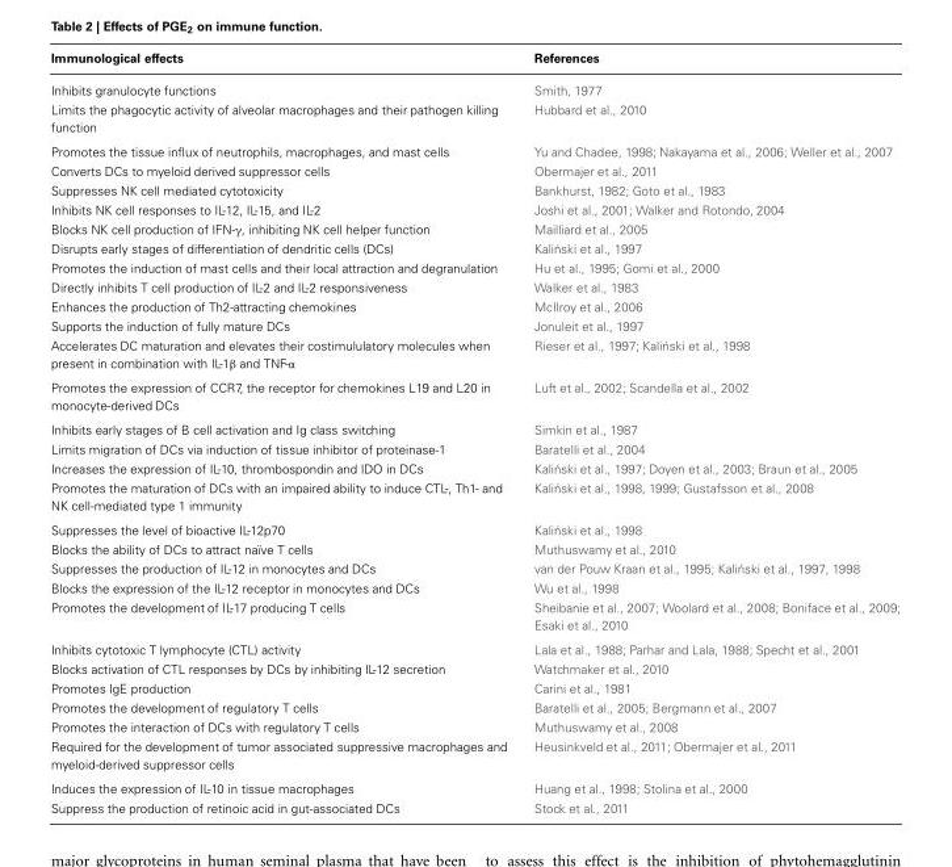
<table><thead><tr><td>Immunological effects</td><td>References</td></tr></thead><tbody><tr><td>Inhibits granulocyte functions</td><td>Smith, 1977</td></tr><tr><td>Limits the phagocytic activity of alveolar macrophages and their pathogen killing function</td><td>Hubbard et al., 2010</td></tr><tr><td>Promotes the tissue influx of neutrophils, macrophages, and mast cells</td><td>Yu and Chadee, 1998; Nakayama et al., 2006; Weller et al., 2007</td></tr><tr><td>Converts DCs to myeloid derived suppressor cells</td><td>Obermajer et al., 2011</td></tr><tr><td>Suppresses NK cell mediated cytotoxicity</td><td>Bankhurst, 1982; Goto et al., 1983</td></tr><tr><td>Inhibits NK cell responses to IL-12, IL-15, and IL-2</td><td>Joshi et al., 2001; Walker and Rotondo, 2004</td></tr><tr><td>Blocks NK cell production of IFN-γ, inhibiting NK cell helper function</td><td>Mailliard et al., 2005</td></tr><tr><td>Disrupts early stages of differentiation of dendritic cells (DCs)</td><td>Kali´nski et al., 1997</td></tr><tr><td>Promotes the induction of mast cells and their local attraction and degranulation</td><td>Hu et al., 1995; Gomi et al., 2000</td></tr><tr><td>Directly inhibits T cell production of IL-2 and IL-2 responsiveness</td><td>Walker et al., 1983</td></tr><tr><td>Enhances the production of Th2-attracting chemokines</td><td>McIlroy et al., 2006</td></tr><tr><td>Supports the induction of fully mature DCs</td><td>Jonuleit et al., 1997</td></tr><tr><td>Accelerates DC maturation and elevates their costimululatory molecules when present in combination with IL-1β and TNF-α</td><td>Rieser et al., 1997; Kali´nski et al., 1998</td></tr><tr><td>Promotes the expression of CCR7, the receptor for chemokines L19 and L20 in monocyte-derived DCs</td><td>Luft et al., 2002; Scandella et al., 2002</td></tr><tr><td>Inhibits early stages of B cell activation and Ig class switching</td><td>Simkin et al., 1987</td></tr><tr><td>Limits migration of DCs via induction of tissue inhibitor of proteinase-1</td><td>Baratelli et al., 2004</td></tr><tr><td>Increases the expression of IL-10, thrombospondin and IDO in DCs</td><td>Kali´nski et al., 1997; Doyen et al., 2003; Braun et al., 2005</td></tr><tr><td>Promotes the maturation of DCs with an impaired ability to induce CTL-, Th1- and NK cell-mediated type 1 immunity</td><td>Kali´nski et al., 1998, 1999; Gustafsson et al., 2008</td></tr><tr><td>Suppresses the level of bioactive IL-12p70</td><td>Kali´nski et al., 1998</td></tr><tr><td>Blocks the ability of DCs to attract naïve T cells</td><td>Muthuswamy et al., 2010</td></tr><tr><td>Suppresses the production of IL-12 in monocytes and DCs</td><td>van der Pouw Kraan et al., 1995; Kali´nski et al., 1997, 1998</td></tr><tr><td>Blocks the expression of the IL-12 receptor in monocytes and DCs</td><td>Wu et al., 1998</td></tr><tr><td>Promotes the development of IL-17 producing T cells</td><td>Sheibanie et al., 2007; Woolard et al., 2008; Boniface et al., 2009; Esaki et al., 2010</td></tr><tr><td>Inhibits cytotoxic T lymphocyte (CTL) activity</td><td>Lala et al., 1988; Parhar and Lala, 1988; Specht et al., 2001</td></tr><tr><td>Blocks activation of CTL responses by DCs by inhibiting IL-12 secretion</td><td>Watchmaker et al., 2010</td></tr><tr><td>Promotes IgE production</td><td>Carini et al., 1981</td></tr><tr><td>Promotes the development of regulatory T cells</td><td>Baratelli et al., 2005; Bergmann et al., 2007</td></tr><tr><td>Promotes the interaction of DCs with regulatory T cells</td><td>Muthuswamy et al., 2008</td></tr><tr><td>Required for the development of tumor associated suppressive macrophages and myeloid-derived suppressor cells</td><td>Heusinkveld et al., 2011; Obermajer et al., 2011</td></tr><tr><td>Induces the expression of IL-10 in tissue macrophages</td><td>Huang et al., 1998; Stolina et al., 2000</td></tr><tr><td>Suppress the production of retinoic acid in gut-associated DCs</td><td>Stock et al., 2011</td></tr></tbody></table>